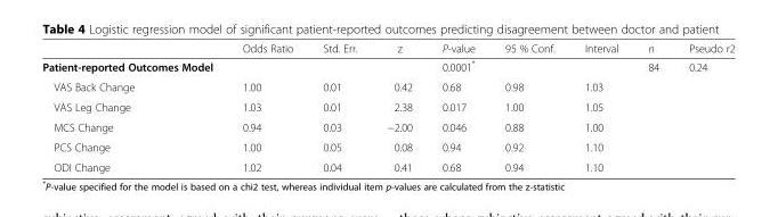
<table><thead><tr><td></td><td>Odds Ratio</td><td>Std. Err.</td><td>z</td><td>P-value</td><td>95 % Conf.</td><td>Interval</td><td>n</td><td>Pseudo r2</td></tr></thead><tbody><tr><td>Patient-reported Outcomes Model</td><td></td><td></td><td></td><td>0.0001*</td><td></td><td></td><td>84</td><td>0.24</td></tr><tr><td>VAS Back Change</td><td>1.00</td><td>0.01</td><td>0.42</td><td>0.68</td><td>0.98</td><td>1.03</td><td></td><td></td></tr><tr><td>VAS Leg Change</td><td>1.03</td><td>0.01</td><td>2.38</td><td>0.017</td><td>1.00</td><td>1.05</td><td></td><td></td></tr><tr><td>MCS Change</td><td>0.94</td><td>0.03</td><td>−2.00</td><td>0.046</td><td>0.88</td><td>1.00</td><td></td><td></td></tr><tr><td>PCS Change</td><td>1.00</td><td>0.05</td><td>0.08</td><td>0.94</td><td>0.92</td><td>1.10</td><td></td><td></td></tr><tr><td>ODI Change</td><td>1.02</td><td>0.04</td><td>0.41</td><td>0.68</td><td>0.94</td><td>1.10</td><td></td><td></td></tr></tbody></table>